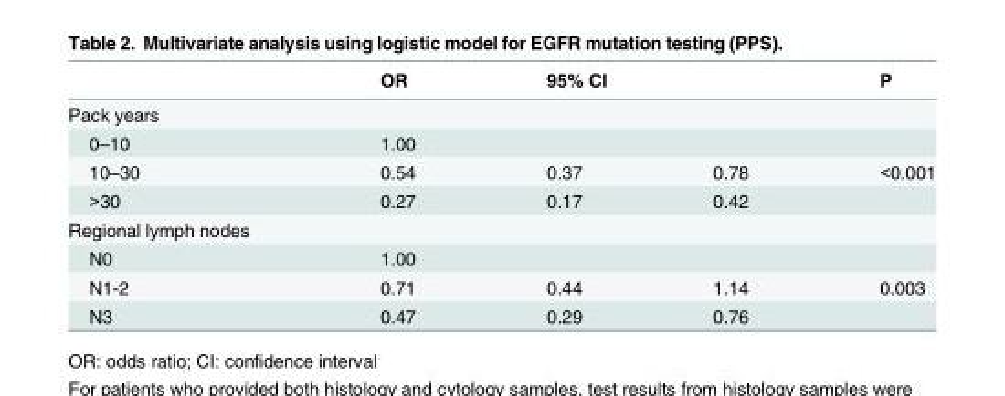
<table><thead><tr><td rowspan="2">Pack years</td><td rowspan="2">OR</td><td colspan="2">95% CI</td><td rowspan="2">P</td></tr><tr><td></td><td></td></tr></thead><tbody><tr><td>0–10</td><td>1.00</td><td></td><td></td><td></td></tr><tr><td>10–30</td><td>0.54</td><td>0.37</td><td>0.78</td><td>&lt;0.001</td></tr><tr><td>&gt;30</td><td>0.27</td><td>0.17</td><td>0.42</td><td></td></tr><tr><td colspan="5">Regional lymph nodes</td></tr><tr><td>N0</td><td>1.00</td><td></td><td></td><td></td></tr><tr><td>N1-2</td><td>0.71</td><td>0.44</td><td>1.14</td><td>0.003</td></tr><tr><td>N3</td><td>0.47</td><td>0.29</td><td>0.76</td><td></td></tr></tbody></table>